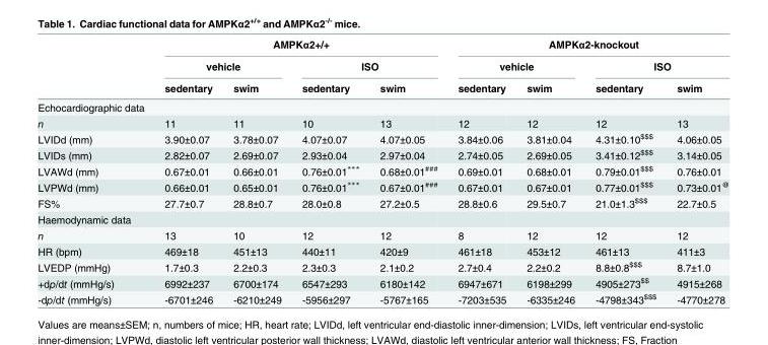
<table><thead><tr><td rowspan="3"></td><td colspan="4">AMPKα2+/+</td><td colspan="4">AMPKα2-knockout</td></tr><tr><td colspan="2">vehicle</td><td colspan="2">ISO</td><td colspan="2">vehicle</td><td colspan="2">ISO</td></tr><tr><td>sedentary</td><td>swim</td><td>sedentary</td><td>swim</td><td>sedentary</td><td>swim</td><td>sedentary</td><td>swim</td></tr></thead><tbody><tr><td colspan="9">Echocardiographic data</td></tr><tr><td>n</td><td>11</td><td>11</td><td>10</td><td>13</td><td>12</td><td>12</td><td>12</td><td>13</td></tr><tr><td>LVIDd (mm)</td><td>3.90±0.07</td><td>3.78±0.07</td><td>4.07±0.07</td><td>4.07±0.05</td><td>3.84±0.06</td><td>3.81±0.04</td><td>4.31±0.10<sup>$$$</sup></td><td>4.06±0.05</td></tr><tr><td>LVIDs (mm)</td><td>2.82±0.07</td><td>2.69±0.07</td><td>2.93±0.04</td><td>2.97±0.04</td><td>2.74±0.05</td><td>2.69±0.05</td><td>3.41±0.12<sup>$$$</sup></td><td>3.14±0.05</td></tr><tr><td>LVAWd (mm)</td><td>0.67±0.01</td><td>0.66±0.01</td><td>0.76±0.01***</td><td>0.68±0.01<sup>###</sup></td><td>0.69±0.01</td><td>0.68±0.01</td><td>0.79±0.01<sup>$$$</sup></td><td>0.76±0.01</td></tr><tr><td>LVPWd (mm)</td><td>0.66±0.01</td><td>0.65±0.01</td><td>0.76±0.01***</td><td>0.67±0.01<sup>###</sup></td><td>0.67±0.01</td><td>0.67±0.01</td><td>0.77±0.01<sup>$$$</sup></td><td>0.73±0.01<sup>@</sup></td></tr><tr><td>FS%</td><td>27.7±0.7</td><td>28.8±0.7</td><td>28.0±0.8</td><td>27.2±0.5</td><td>28.8±0.6</td><td>29.5±0.7</td><td>21.0±1.3<sup>$$$</sup></td><td>22.7±0.5</td></tr><tr><td colspan="9">Haemodynamic data</td></tr><tr><td>n</td><td>13</td><td>10</td><td>12</td><td>12</td><td>8</td><td>12</td><td>12</td><td>12</td></tr><tr><td>HR (bpm)</td><td>469±18</td><td>451±13</td><td>440±11</td><td>420±9</td><td>461±18</td><td>453±12</td><td>461±13</td><td>411±3</td></tr><tr><td>LVEDP (mmHg)</td><td>1.7±0.3</td><td>2.2±0.3</td><td>2.3±0.3</td><td>2.1±0.2</td><td>2.7±0.4</td><td>2.2±0.2</td><td>8.8±0.8<sup>$$$</sup></td><td>8.7±1.0</td></tr><tr><td>+dp/dt (mmHg/s)</td><td>6992±237</td><td>6700±174</td><td>6547±293</td><td>6180±142</td><td>6947±671</td><td>6198±299</td><td>4905±273<sup>$$</sup></td><td>4915±268</td></tr><tr><td>-dp/dt (mmHg/s)</td><td>-6701±246</td><td>-6210±249</td><td>-5956±297</td><td>-5767±165</td><td>-7203±535</td><td>-6335±246</td><td>-4798±343<sup>$$$</sup></td><td>-4770±278</td></tr></tbody></table>